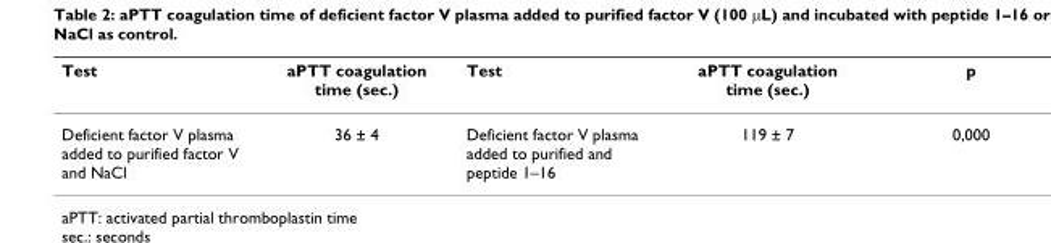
<table><thead><tr><td>Test</td><td>aPTT coagulation time (sec.)</td><td>Test</td><td>aPTT coagulation time (sec.)</td><td>p</td></tr></thead><tbody><tr><td>Deficient factor V plasma added to purified factor V and NaCl</td><td>36 ± 4</td><td>Deficient factor V plasma added to purified and peptide 1–16</td><td>119 ± 7</td><td>0,000</td></tr></tbody></table>